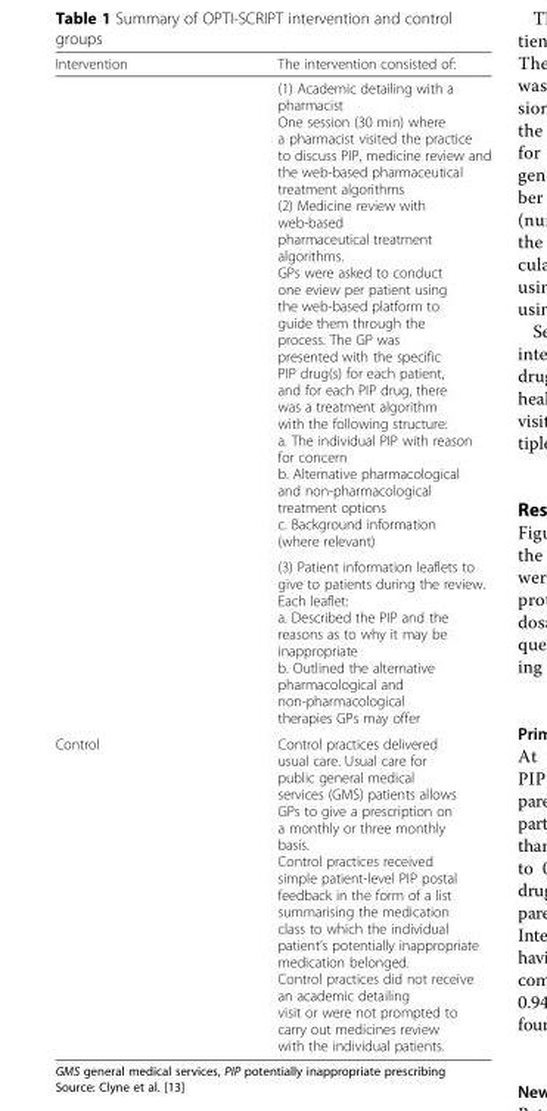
<table><thead><tr><td>Intervention</td><td>The intervention consisted of:</td></tr></thead><tbody><tr><td></td><td>(1) Academic detailing with a pharmacist One session (30 min) where a pharmacist visited the practice to discuss PIP, medicine review and the web-based pharmaceutical treatment algorithms (2) Medicine review with web-based pharmaceutical treatment algorithms. GPs were asked to conduct one eview per patient using the web-based platform to guide them through the process. The GP was presented with the specific PIP drug(s) for each patient, and for each PIP drug, there was a treatment algorithm with the following structure: a. The individual PIP with reason for concern b. Alternative pharmacological and non-pharmacological treatment options c. Background information (where relevant)</td></tr><tr><td></td><td>(3) Patient information leaflets to give to patients during the review. Each leaflet: a. Described the PIP and the reasons as to why it may be inappropriate b. Outlined the alternative pharmacological and non-pharmacological therapies GPs may offer</td></tr><tr><td>Control</td><td>Control practices delivered usual care. Usual care for public general medical services (GMS) patients allows GPs to give a prescription on a monthly or three monthly basis. Control practices received simple patient-level PIP postal feedback in the form of a list summarising the medication class to which the individual patient’s potentially inappropriate medication belonged. Control practices did not receive an academic detailing visit or were not prompted to carry out medicines review with the individual patients.</td></tr></tbody></table>